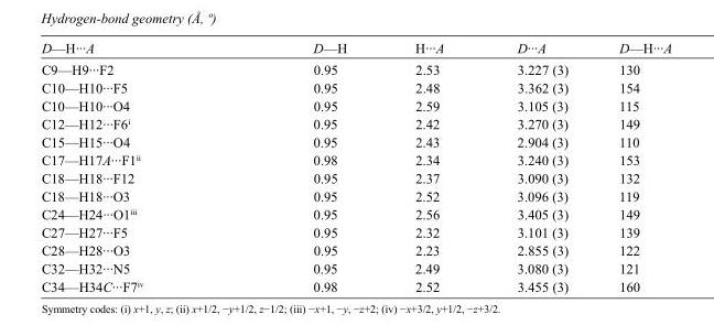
<table><tbody><tr><td>D—H···A</td><td>D—H</td><td>H···A</td><td>D···A</td><td>D—H···A</td></tr><tr><td>C9—H9···F2</td><td>0.95</td><td>2.53</td><td>3.227 (3)</td><td>130</td></tr><tr><td>C10—H10···F5</td><td>0.95</td><td>2.48</td><td>3.362 (3)</td><td>154</td></tr><tr><td>C10—H10···O4</td><td>0.95</td><td>2.59</td><td>3.105 (3)</td><td>115</td></tr><tr><td>C12—H12···F6<sup>i</sup></td><td>0.95</td><td>2.42</td><td>3.270 (3)</td><td>149</td></tr><tr><td>C15—H15···O4</td><td>0.95</td><td>2.43</td><td>2.904 (3)</td><td>110</td></tr><tr><td>C17—H17A···F1<sup>ii</sup></td><td>0.98</td><td>2.34</td><td>3.240 (3)</td><td>153</td></tr><tr><td>C18—H18···F12</td><td>0.95</td><td>2.37</td><td>3.090 (3)</td><td>132</td></tr><tr><td>C18—H18···O3</td><td>0.95</td><td>2.52</td><td>3.096 (3)</td><td>119</td></tr><tr><td>C24—H24···O1<sup>iii</sup></td><td>0.95</td><td>2.56</td><td>3.405 (3)</td><td>149</td></tr><tr><td>C27—H27···F5</td><td>0.95</td><td>2.32</td><td>3.101 (3)</td><td>139</td></tr><tr><td>C28—H28···O3</td><td>0.95</td><td>2.23</td><td>2.855 (3)</td><td>122</td></tr><tr><td>C32—H32···N5</td><td>0.95</td><td>2.49</td><td>3.080 (3)</td><td>121</td></tr><tr><td>C34—H34C···F7<sup>iv</sup></td><td>0.98</td><td>2.52</td><td>3.455 (3)</td><td>160</td></tr></tbody></table>